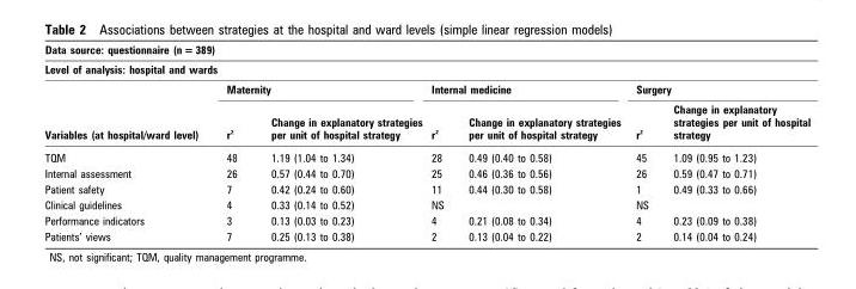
<table><thead><tr><td rowspan="2" colspan="7">Data source: questionnaire (n = 389) Level of analysis: hospital and wards</td></tr><tr></tr><tr><td rowspan="2">Variables (at hospital/ward level)</td><td colspan="2">Maternity</td><td colspan="2">Internal medicine</td><td colspan="2">Surgery</td></tr><tr><td>r <sup>2</sup></td><td>Change in explanatory strategies per unit of hospital strategy</td><td>r <sup>2</sup></td><td>Change in explanatory strategies per unit of hospital strategy</td><td>r <sup>2</sup></td><td>Change in explanatory strategies per unit of hospital strategy</td></tr></thead><tbody><tr><td>TQM</td><td>48</td><td>1.19 (1.04 to 1.34)</td><td>28</td><td>0.49 (0.40 to 0.58)</td><td>45</td><td>1.09 (0.95 to 1.23)</td></tr><tr><td>Internal assessment</td><td>26</td><td>0.57 (0.44 to 0.70)</td><td>25</td><td>0.46 (0.36 to 0.56)</td><td>26</td><td>0.59 (0.47 to 0.71)</td></tr><tr><td>Patient safety</td><td>7</td><td>0.42 (0.24 to 0.60)</td><td>11</td><td>0.44 (0.30 to 0.58)</td><td>1</td><td>0.49 (0.33 to 0.66)</td></tr><tr><td>Clinical guidelines</td><td>4</td><td>0.33 (0.14 to 0.52)</td><td>NS</td><td></td><td>NS</td><td></td></tr><tr><td>Performance indicators</td><td>3</td><td>0.13 (0.03 to 0.23)</td><td>4</td><td>0.21 (0.08 to 0.34)</td><td>4</td><td>0.23 (0.09 to 0.38)</td></tr><tr><td>Patients’ views</td><td>7</td><td>0.25 (0.13 to 0.38)</td><td>2</td><td>0.13 (0.04 to 0.22)</td><td>2</td><td>0.14 (0.04 to 0.24)</td></tr></tbody></table>